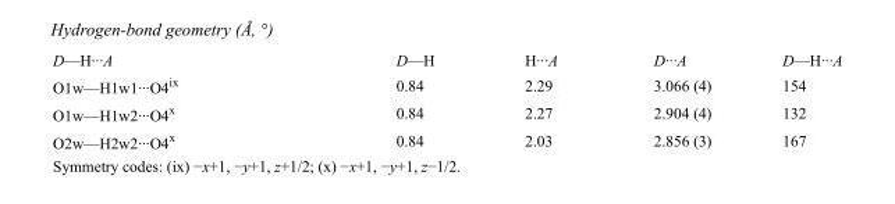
<table><tbody><tr><td>D—H···A</td><td>D—H</td><td>H···A</td><td>D···A</td><td>D—H···A</td></tr><tr><td>O1w—H1w1···O4<sup>ix</sup></td><td>0.84</td><td>2.29</td><td>3.066 (4)</td><td>154</td></tr><tr><td>O1w—H1w2···O4<sup>x</sup></td><td>0.84</td><td>2.27</td><td>2.904 (4)</td><td>132</td></tr><tr><td>O2w—H2w2···O4<sup>x</sup></td><td>0.84</td><td>2.03</td><td>2.856 (3)</td><td>167</td></tr></tbody></table>